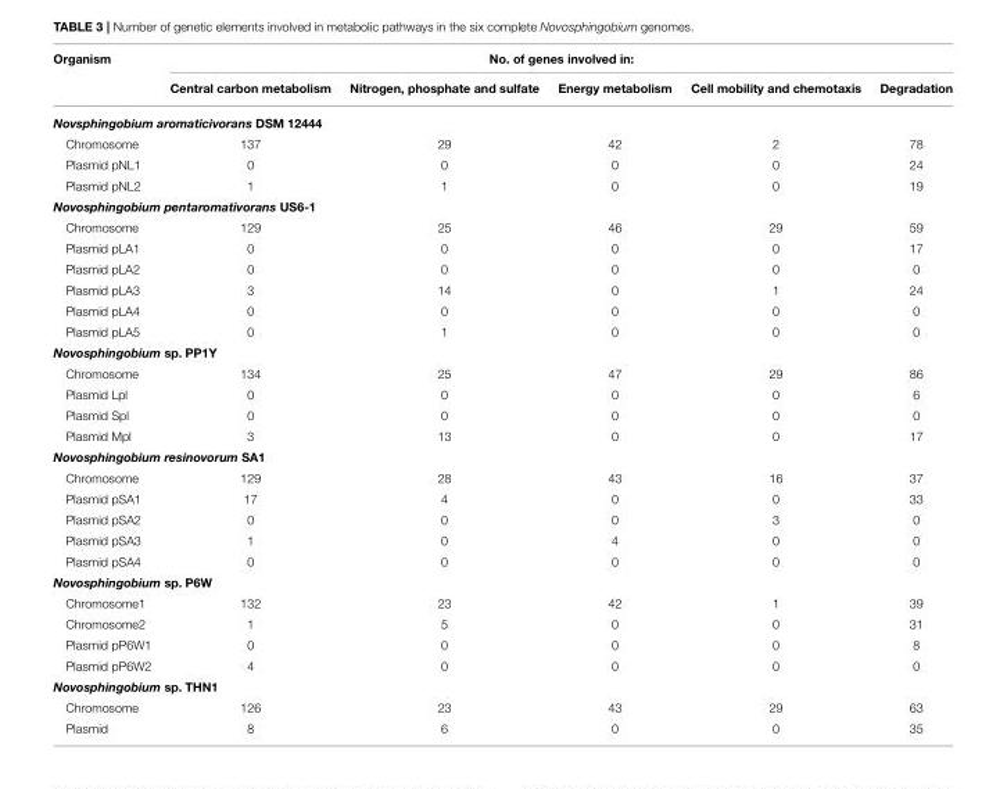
<table><thead><tr><td rowspan="2">Organism</td><td colspan="5">No. of genes involved in:</td></tr><tr><td>Central carbon metabolism</td><td>Nitrogen, phosphate and sulfate</td><td>Energy metabolism</td><td>Cell mobility and chemotaxis</td><td>Degradation</td></tr></thead><tbody><tr><td colspan="6">Novsphingobium aromaticivorans DSM 12444</td></tr><tr><td>Chromosome</td><td>137</td><td>29</td><td>42</td><td>2</td><td>78</td></tr><tr><td>Plasmid pNL1</td><td>0</td><td>0</td><td>0</td><td>0</td><td>24</td></tr><tr><td>Plasmid pNL2</td><td>1</td><td>1</td><td>0</td><td>0</td><td>19</td></tr><tr><td colspan="6">Novosphingobium pentaromativorans US6-1</td></tr><tr><td>Chromosome</td><td>129</td><td>25</td><td>46</td><td>29</td><td>59</td></tr><tr><td>Plasmid pLA1</td><td>0</td><td>0</td><td>0</td><td>0</td><td>17</td></tr><tr><td>Plasmid pLA2</td><td>0</td><td>0</td><td>0</td><td>0</td><td>0</td></tr><tr><td>Plasmid pLA3</td><td>3</td><td>14</td><td>0</td><td>1</td><td>24</td></tr><tr><td>Plasmid pLA4</td><td>0</td><td>0</td><td>0</td><td>0</td><td>0</td></tr><tr><td>Plasmid pLA5</td><td>0</td><td>1</td><td>0</td><td>0</td><td>0</td></tr><tr><td colspan="6">Novosphingobium sp. PP1Y</td></tr><tr><td>Chromosome</td><td>134</td><td>25</td><td>47</td><td>29</td><td>86</td></tr><tr><td>Plasmid Lpl</td><td>0</td><td>0</td><td>0</td><td>0</td><td>6</td></tr><tr><td>Plasmid Spl</td><td>0</td><td>0</td><td>0</td><td>0</td><td>0</td></tr><tr><td>Plasmid Mpl</td><td>3</td><td>13</td><td>0</td><td>0</td><td>17</td></tr><tr><td colspan="6">Novosphingobium resinovorum SA1</td></tr><tr><td>Chromosome</td><td>129</td><td>28</td><td>43</td><td>16</td><td>37</td></tr><tr><td>Plasmid pSA1</td><td>17</td><td>4</td><td>0</td><td>0</td><td>33</td></tr><tr><td>Plasmid pSA2</td><td>0</td><td>0</td><td>0</td><td>3</td><td>0</td></tr><tr><td>Plasmid pSA3</td><td>1</td><td>0</td><td>4</td><td>0</td><td>0</td></tr><tr><td>Plasmid pSA4</td><td>0</td><td>0</td><td>0</td><td>0</td><td>0</td></tr><tr><td colspan="6">Novosphingobium sp. P6W</td></tr><tr><td>Chromosome1</td><td>132</td><td>23</td><td>42</td><td>1</td><td>39</td></tr><tr><td>Chromosome2</td><td>1</td><td>5</td><td>0</td><td>0</td><td>31</td></tr><tr><td>Plasmid pP6W1</td><td>0</td><td>0</td><td>0</td><td>0</td><td>8</td></tr><tr><td>Plasmid pP6W2</td><td>4</td><td>0</td><td>0</td><td>0</td><td>0</td></tr><tr><td colspan="6">Novosphingobium sp. THN1</td></tr><tr><td>Chromosome</td><td>126</td><td>23</td><td>43</td><td>29</td><td>63</td></tr><tr><td>Plasmid</td><td>8</td><td>6</td><td>0</td><td>0</td><td>35</td></tr></tbody></table>